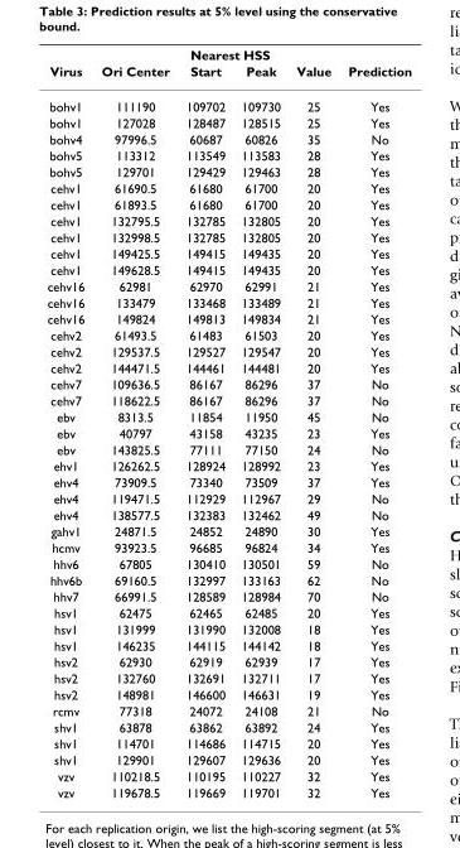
<table><thead><tr><td colspan="6">Nearest HSS</td></tr><tr><td>Virus</td><td>Ori Center</td><td>Start</td><td>Peak</td><td>Value</td><td>Prediction</td></tr></thead><tbody><tr><td>bohv1</td><td>111190</td><td>109702</td><td>109730</td><td>25</td><td>Yes</td></tr><tr><td>bohv1</td><td>127028</td><td>128487</td><td>128515</td><td>25</td><td>Yes</td></tr><tr><td>bohv4</td><td>97996.5</td><td>60687</td><td>60826</td><td>35</td><td>No</td></tr><tr><td>bohv5</td><td>113312</td><td>113549</td><td>113583</td><td>28</td><td>Yes</td></tr><tr><td>bohv5</td><td>129701</td><td>129429</td><td>129463</td><td>28</td><td>Yes</td></tr><tr><td>cehv1</td><td>61690.5</td><td>61680</td><td>61700</td><td>20</td><td>Yes</td></tr><tr><td>cehv1</td><td>61893.5</td><td>61680</td><td>61700</td><td>20</td><td>Yes</td></tr><tr><td>cehv1</td><td>132795.5</td><td>132785</td><td>132805</td><td>20</td><td>Yes</td></tr><tr><td>cehv1</td><td>132998.5</td><td>132785</td><td>132805</td><td>20</td><td>Yes</td></tr><tr><td>cehv1</td><td>149425.5</td><td>149415</td><td>149435</td><td>20</td><td>Yes</td></tr><tr><td>cehv1</td><td>149628.5</td><td>149415</td><td>149435</td><td>20</td><td>Yes</td></tr><tr><td>cehv16</td><td>62981</td><td>62970</td><td>62991</td><td>21</td><td>Yes</td></tr><tr><td>cehv16</td><td>133479</td><td>133468</td><td>133489</td><td>21</td><td>Yes</td></tr><tr><td>cehv16</td><td>149824</td><td>149813</td><td>149834</td><td>21</td><td>Yes</td></tr><tr><td>cehv2</td><td>61493.5</td><td>61483</td><td>61503</td><td>20</td><td>Yes</td></tr><tr><td>cehv2</td><td>129537.5</td><td>129527</td><td>129547</td><td>20</td><td>Yes</td></tr><tr><td>cehv2</td><td>144471.5</td><td>144461</td><td>144481</td><td>20</td><td>Yes</td></tr><tr><td>cehv7</td><td>109636.5</td><td>86167</td><td>86296</td><td>37</td><td>No</td></tr><tr><td>cehv7</td><td>118622.5</td><td>86167</td><td>86296</td><td>37</td><td>No</td></tr><tr><td>ebv</td><td>8313.5</td><td>11854</td><td>11950</td><td>45</td><td>No</td></tr><tr><td>ebv</td><td>40797</td><td>43158</td><td>43235</td><td>23</td><td>Yes</td></tr><tr><td>ebv</td><td>143825.5</td><td>77111</td><td>77150</td><td>24</td><td>No</td></tr><tr><td>ehv1</td><td>126262.5</td><td>128924</td><td>128992</td><td>23</td><td>Yes</td></tr><tr><td>ehv4</td><td>73909.5</td><td>73340</td><td>73509</td><td>37</td><td>Yes</td></tr><tr><td>ehv4</td><td>119471.5</td><td>112929</td><td>112967</td><td>29</td><td>No</td></tr><tr><td>ehv4</td><td>138577.5</td><td>132383</td><td>132462</td><td>49</td><td>No</td></tr><tr><td>gahv1</td><td>24871.5</td><td>24852</td><td>24890</td><td>30</td><td>Yes</td></tr><tr><td>hcmv</td><td>93923.5</td><td>96685</td><td>96824</td><td>34</td><td>Yes</td></tr><tr><td>hhv6</td><td>67805</td><td>130410</td><td>130501</td><td>59</td><td>No</td></tr><tr><td>hhv6b</td><td>69160.5</td><td>132997</td><td>133163</td><td>62</td><td>No</td></tr><tr><td>hhv7</td><td>66991.5</td><td>128589</td><td>128984</td><td>70</td><td>No</td></tr><tr><td>hsv1</td><td>62475</td><td>62465</td><td>62485</td><td>20</td><td>Yes</td></tr><tr><td>hsv1</td><td>131999</td><td>131990</td><td>132008</td><td>18</td><td>Yes</td></tr><tr><td>hsv1</td><td>146235</td><td>144115</td><td>144142</td><td>18</td><td>Yes</td></tr><tr><td>hsv2</td><td>62930</td><td>62919</td><td>62939</td><td>17</td><td>Yes</td></tr><tr><td>hsv2</td><td>132760</td><td>132691</td><td>132711</td><td>17</td><td>Yes</td></tr><tr><td>hsv2</td><td>148981</td><td>146600</td><td>146631</td><td>19</td><td>Yes</td></tr><tr><td>rcmv</td><td>77318</td><td>24072</td><td>24108</td><td>21</td><td>No</td></tr><tr><td>shv1</td><td>63878</td><td>63862</td><td>63892</td><td>24</td><td>Yes</td></tr><tr><td>shv1</td><td>114701</td><td>114686</td><td>114715</td><td>20</td><td>Yes</td></tr><tr><td>shv1</td><td>129901</td><td>129607</td><td>129636</td><td>20</td><td>Yes</td></tr><tr><td>vzv</td><td>110218.5</td><td>110195</td><td>110227</td><td>32</td><td>Yes</td></tr><tr><td>vzv</td><td>119678.5</td><td>119669</td><td>119701</td><td>32</td><td>Yes</td></tr></tbody></table>